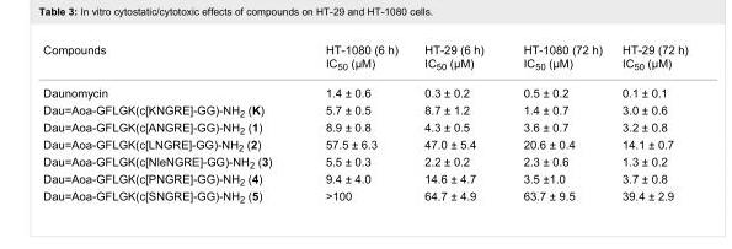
<table><tbody><tr><td>Compounds</td><td>HT-1080 (6 h) IC<sub>50</sub> (μM)</td><td>HT-29 (6 h) IC<sub>50</sub> (μM)</td><td>HT-1080 (72 h) IC<sub>50</sub> (μM)</td><td>HT-29 (72 h) IC<sub>50</sub> (μM)</td></tr><tr><td>Daunomycin</td><td>1.4 ± 0.6</td><td>0.3 ± 0.2</td><td>0.5 ± 0.2</td><td>0.1 ± 0.1</td></tr><tr><td>Dau=Aoa-GFLGK(c[KNGRE]-GG)-NH<sub>2</sub> (K)</td><td>5.7 ± 0.5</td><td>8.7 ± 1.2</td><td>1.4 ± 0.7</td><td>3.0 ± 0.6</td></tr><tr><td>Dau=Aoa-GFLGK(c[ANGRE]-GG)-NH<sub>2</sub> (1)</td><td>8.9 ± 0.8</td><td>4.3 ± 0.5</td><td>3.6 ± 0.7</td><td>3.2 ± 0.8</td></tr><tr><td>Dau=Aoa-GFLGK(c[LNGRE]-GG)-NH<sub>2</sub> (2)</td><td>57.5 ± 6.3</td><td>47.0 ± 5.4</td><td>20.6 ± 0.4</td><td>14.1 ± 0.7</td></tr><tr><td>Dau=Aoa-GFLGK(c[NleNGRE]-GG)-NH<sub>2</sub> (3)</td><td>5.5 ± 0.3</td><td>2.2 ± 0.2</td><td>2.3 ± 0.6</td><td>1.3 ± 0.2</td></tr><tr><td>Dau=Aoa-GFLGK(c[PNGRE]-GG)-NH<sub>2</sub> (4)</td><td>9.4 ± 4.0</td><td>14.6 ± 4.7</td><td>3.5 ±1.0</td><td>3.7 ± 0.8</td></tr><tr><td>Dau=Aoa-GFLGK(c[SNGRE]-GG)-NH<sub>2</sub> (5)</td><td>&gt;100</td><td>64.7 ± 4.9</td><td>63.7 ± 9.5</td><td>39.4 ± 2.9</td></tr></tbody></table>